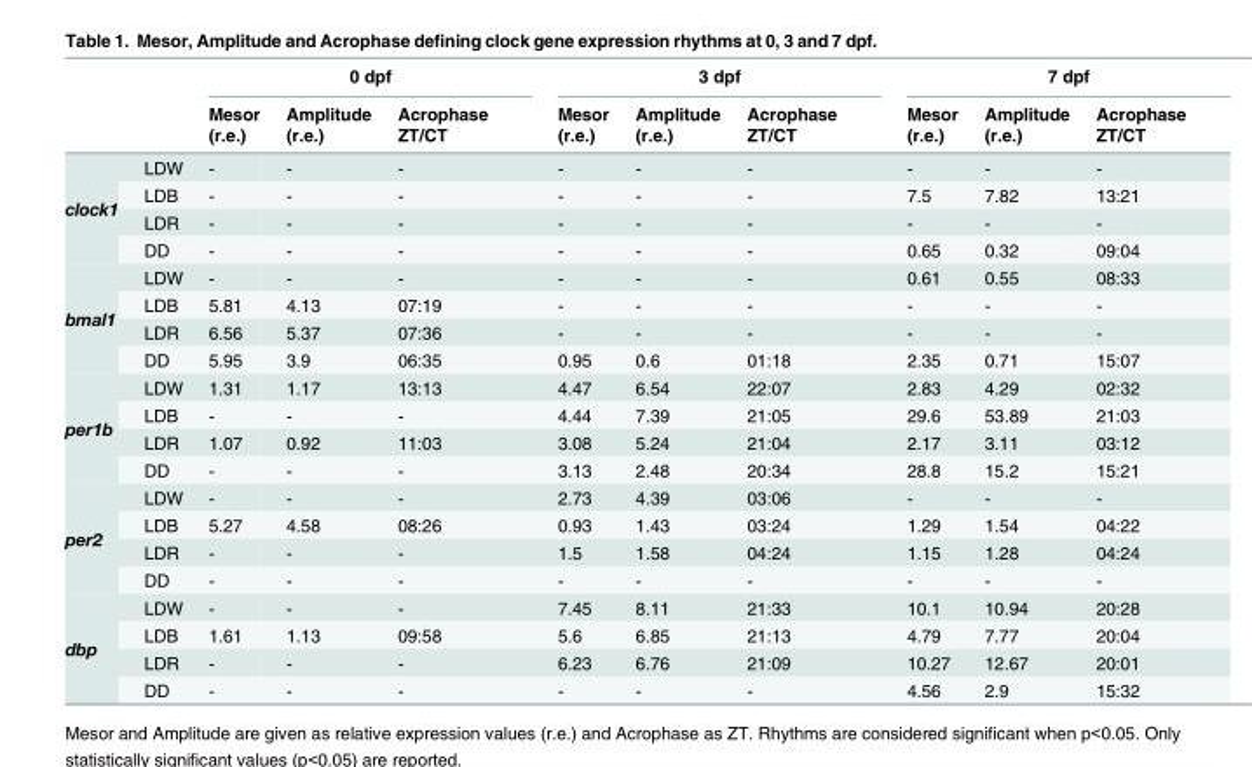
<table><thead><tr><td rowspan="2"></td><td rowspan="2"></td><td colspan="3">0 dpf</td><td colspan="3">3 dpf</td><td colspan="3">7 dpf</td></tr><tr><td>Mesor (r.e.)</td><td>Amplitude (r.e.)</td><td>Acrophase ZT/CT</td><td>Mesor (r.e.)</td><td>Amplitude (r.e.)</td><td>Acrophase ZT/CT</td><td>Mesor (r.e.)</td><td>Amplitude (r.e.)</td><td>Acrophase ZT/CT</td></tr></thead><tbody><tr><td rowspan="4">clock1</td><td>LDW</td><td>-</td><td>-</td><td>-</td><td>-</td><td>-</td><td>-</td><td>-</td><td>-</td><td>-</td></tr><tr><td>LDB</td><td>-</td><td>-</td><td>-</td><td>-</td><td>-</td><td>-</td><td>7.5</td><td>7.82</td><td>13:21</td></tr><tr><td>LDR</td><td>-</td><td>-</td><td>-</td><td>-</td><td>-</td><td>-</td><td>-</td><td>-</td><td>-</td></tr><tr><td>DD</td><td>-</td><td>-</td><td>-</td><td>-</td><td>-</td><td>-</td><td>0.65</td><td>0.32</td><td>09:04</td></tr><tr><td rowspan="4">bmal1</td><td>LDW</td><td>-</td><td>-</td><td>-</td><td>-</td><td>-</td><td>-</td><td>0.61</td><td>0.55</td><td>08:33</td></tr><tr><td>LDB</td><td>5.81</td><td>4.13</td><td>07:19</td><td>-</td><td>-</td><td>-</td><td>-</td><td>-</td><td>-</td></tr><tr><td>LDR</td><td>6.56</td><td>5.37</td><td>07:36</td><td>-</td><td>-</td><td>-</td><td>-</td><td>-</td><td>-</td></tr><tr><td>DD</td><td>5.95</td><td>3.9</td><td>06:35</td><td>0.95</td><td>0.6</td><td>01:18</td><td>2.35</td><td>0.71</td><td>15:07</td></tr><tr><td rowspan="4">per1b</td><td>LDW</td><td>1.31</td><td>1.17</td><td>13:13</td><td>4.47</td><td>6.54</td><td>22:07</td><td>2.83</td><td>4.29</td><td>02:32</td></tr><tr><td>LDB</td><td>-</td><td>-</td><td>-</td><td>4.44</td><td>7.39</td><td>21:05</td><td>29.6</td><td>53.89</td><td>21:03</td></tr><tr><td>LDR</td><td>1.07</td><td>0.92</td><td>11:03</td><td>3.08</td><td>5.24</td><td>21:04</td><td>2.17</td><td>3.11</td><td>03:12</td></tr><tr><td>DD</td><td>-</td><td>-</td><td>-</td><td>3.13</td><td>2.48</td><td>20:34</td><td>28.8</td><td>15.2</td><td>15:21</td></tr><tr><td rowspan="4">per2</td><td>LDW</td><td>-</td><td>-</td><td>-</td><td>2.73</td><td>4.39</td><td>03:06</td><td>-</td><td>-</td><td>-</td></tr><tr><td>LDB</td><td>5.27</td><td>4.58</td><td>08:26</td><td>0.93</td><td>1.43</td><td>03:24</td><td>1.29</td><td>1.54</td><td>04:22</td></tr><tr><td>LDR</td><td>-</td><td>-</td><td>-</td><td>1.5</td><td>1.58</td><td>04:24</td><td>1.15</td><td>1.28</td><td>04:24</td></tr><tr><td>DD</td><td>-</td><td>-</td><td>-</td><td>-</td><td>-</td><td>-</td><td>-</td><td>-</td><td>-</td></tr><tr><td rowspan="4">dbp</td><td>LDW</td><td>-</td><td>-</td><td>-</td><td>7.45</td><td>8.11</td><td>21:33</td><td>10.1</td><td>10.94</td><td>20:28</td></tr><tr><td>LDB</td><td>1.61</td><td>1.13</td><td>09:58</td><td>5.6</td><td>6.85</td><td>21:13</td><td>4.79</td><td>7.77</td><td>20:04</td></tr><tr><td>LDR</td><td>-</td><td>-</td><td>-</td><td>6.23</td><td>6.76</td><td>21:09</td><td>10.27</td><td>12.67</td><td>20:01</td></tr><tr><td>DD</td><td>-</td><td>-</td><td>-</td><td>-</td><td>-</td><td>-</td><td>4.56</td><td>2.9</td><td>15:32</td></tr></tbody></table>